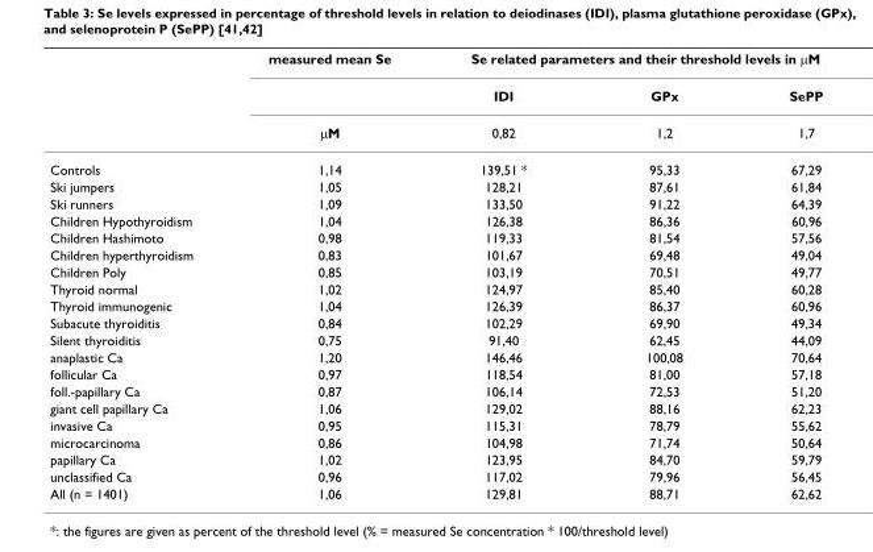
<table><thead><tr><td rowspan="3"></td><td rowspan="3">measured mean Se μM</td><td colspan="3">Se related parameters and their threshold levels in μM</td></tr><tr><td rowspan="2">IDI 0,82</td><td rowspan="2">GPx 1,2</td><td rowspan="2">SePP 1,7</td></tr><tr></tr></thead><tbody><tr><td>Controls</td><td>1,14</td><td>139,51 *</td><td>95,33</td><td>67,29</td></tr><tr><td>Ski jumpers</td><td>1,05</td><td>128,21</td><td>87,61</td><td>61,84</td></tr><tr><td>Ski runners</td><td>1,09</td><td>133,50</td><td>91,22</td><td>64,39</td></tr><tr><td>Children Hypothyroidism</td><td>1,04</td><td>126,38</td><td>86,36</td><td>60,96</td></tr><tr><td>Children Hashimoto</td><td>0,98</td><td>119,33</td><td>81,54</td><td>57,56</td></tr><tr><td>Children hyperthyroidism</td><td>0,83</td><td>101,67</td><td>69,48</td><td>49,04</td></tr><tr><td>Children Poly</td><td>0,85</td><td>103,19</td><td>70,51</td><td>49,77</td></tr><tr><td>Thyroid normal</td><td>1,02</td><td>124,97</td><td>85,40</td><td>60,28</td></tr><tr><td>Thyroid immunogenic</td><td>1,04</td><td>126,39</td><td>86,37</td><td>60,96</td></tr><tr><td>Subacute thyroiditis</td><td>0,84</td><td>102,29</td><td>69,90</td><td>49,34</td></tr><tr><td>Silent thyroiditis</td><td>0,75</td><td>91,40</td><td>62,45</td><td>44,09</td></tr><tr><td>anaplastic Ca</td><td>1,20</td><td>146,46</td><td>100,08</td><td>70,64</td></tr><tr><td>follicular Ca</td><td>0,97</td><td>118,54</td><td>81,00</td><td>57,18</td></tr><tr><td>foll.-papillary Ca</td><td>0,87</td><td>106,14</td><td>72,53</td><td>51,20</td></tr><tr><td>giant cell papillary Ca</td><td>1,06</td><td>129,02</td><td>88,16</td><td>62,23</td></tr><tr><td>invasive Ca</td><td>0,95</td><td>115,31</td><td>78,79</td><td>55,62</td></tr><tr><td>microcarcinoma</td><td>0,86</td><td>104,98</td><td>71,74</td><td>50,64</td></tr><tr><td>papillary Ca</td><td>1,02</td><td>123,95</td><td>84,70</td><td>59,79</td></tr><tr><td>unclassified Ca</td><td>0,96</td><td>117,02</td><td>79,96</td><td>56,45</td></tr><tr><td>All (n = 1401)</td><td>1,06</td><td>129,81</td><td>88,71</td><td>62,62</td></tr></tbody></table>